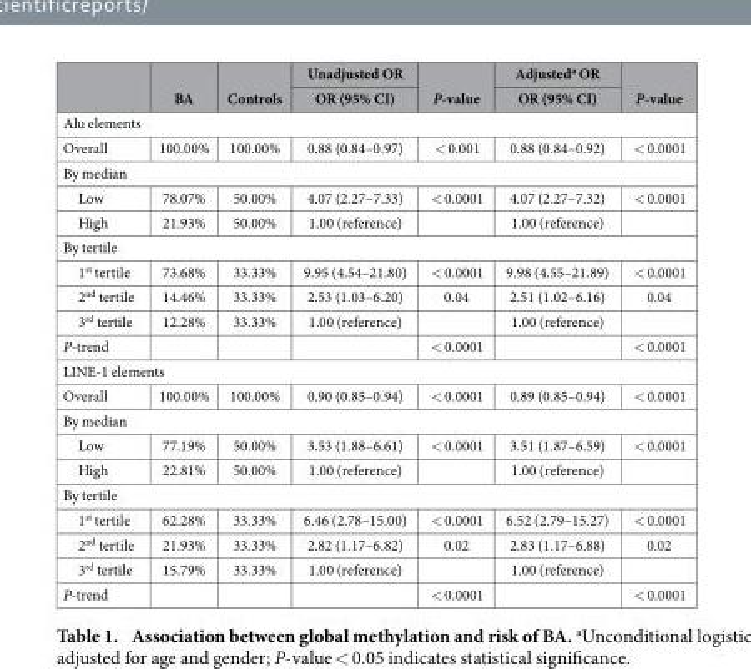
<table><thead><tr><td rowspan="2"></td><td rowspan="2">BA</td><td rowspan="2">Controls</td><td rowspan="2">Unadjusted OR OR (95% CI)</td><td rowspan="2">P-value</td><td rowspan="2">Adjusted<sup>a</sup> OR OR (95% CI)</td><td rowspan="2">P-value</td></tr><tr></tr></thead><tbody><tr><td colspan="7">Alu elements</td></tr><tr><td>Overall</td><td>100.00%</td><td>100.00%</td><td>0.88 (0.84–0.97)</td><td>&lt; 0.001</td><td>0.88 (0.84–0.92)</td><td>&lt; 0.0001</td></tr><tr><td colspan="7">By median</td></tr><tr><td>Low</td><td>78.07%</td><td>50.00%</td><td>4.07 (2.27–7.33)</td><td>&lt; 0.0001</td><td>4.07 (2.27–7.32)</td><td>&lt; 0.0001</td></tr><tr><td>High</td><td>21.93%</td><td>50.00%</td><td>1.00 (reference)</td><td></td><td>1.00 (reference)</td><td></td></tr><tr><td colspan="7">By tertile</td></tr><tr><td>1<sup>st</sup> tertile</td><td>73.68%</td><td>33.33%</td><td>9.95 (4.54–21.80)</td><td>&lt; 0.0001</td><td>9.98 (4.55–21.89)</td><td>&lt; 0.0001</td></tr><tr><td>2<sup>nd</sup> tertile</td><td>14.46%</td><td>33.33%</td><td>2.53 (1.03–6.20)</td><td>0.04</td><td>2.51 (1.02–6.16)</td><td>0.04</td></tr><tr><td>3<sup>rd</sup> tertile</td><td>12.28%</td><td>33.33%</td><td>1.00 (reference)</td><td></td><td>1.00 (reference)</td><td></td></tr><tr><td>P-trend</td><td></td><td></td><td></td><td>&lt; 0.0001</td><td></td><td>&lt; 0.0001</td></tr><tr><td colspan="7">LINE-1 elements</td></tr><tr><td>Overall</td><td>100.00%</td><td>100.00%</td><td>0.90 (0.85–0.94)</td><td>&lt; 0.0001</td><td>0.89 (0.85–0.94)</td><td>&lt; 0.0001</td></tr><tr><td colspan="7">By median</td></tr><tr><td>Low</td><td>77.19%</td><td>50.00%</td><td>3.53 (1.88–6.61)</td><td>&lt; 0.0001</td><td>3.51 (1.87–6.59)</td><td>&lt; 0.0001</td></tr><tr><td>High</td><td>22.81%</td><td>50.00%</td><td>1.00 (reference)</td><td></td><td>1.00 (reference)</td><td></td></tr><tr><td colspan="7">By tertile</td></tr><tr><td>1<sup>st</sup> tertile</td><td>62.28%</td><td>33.33%</td><td>6.46 (2.78–15.00)</td><td>&lt; 0.0001</td><td>6.52 (2.79–15.27)</td><td>&lt; 0.0001</td></tr><tr><td>2<sup>nd</sup> tertile</td><td>21.93%</td><td>33.33%</td><td>2.82 (1.17–6.82)</td><td>0.02</td><td>2.83 (1.17–6.88)</td><td>0.02</td></tr><tr><td>3<sup>rd</sup> tertile</td><td>15.79%</td><td>33.33%</td><td>1.00 (reference)</td><td></td><td>1.00 (reference)</td><td></td></tr><tr><td>P-trend</td><td></td><td></td><td></td><td>&lt; 0.0001</td><td></td><td>&lt; 0.0001</td></tr></tbody></table>